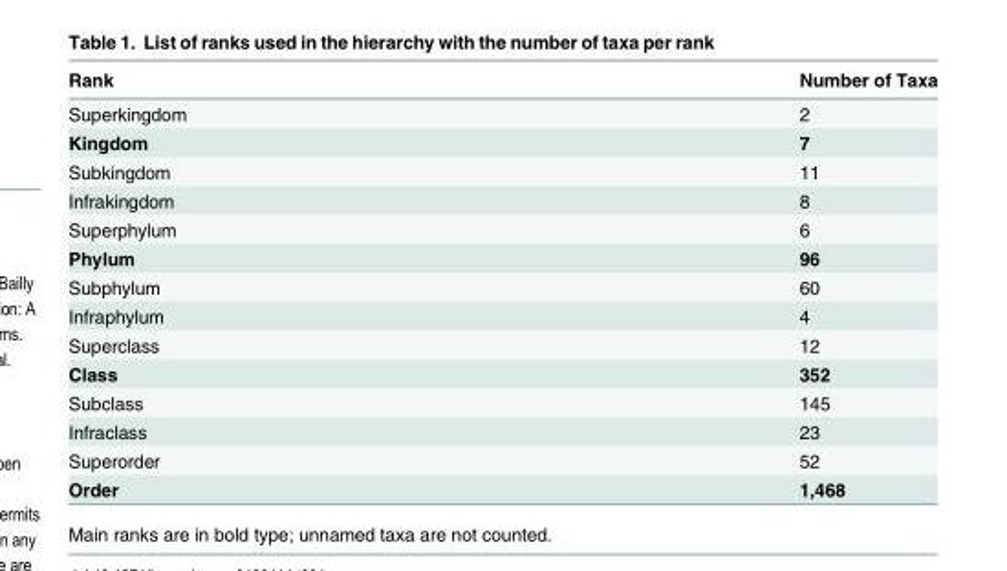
<table><thead><tr><td>Rank</td><td>Number of Taxa</td></tr></thead><tbody><tr><td>Superkingdom</td><td>2</td></tr><tr><td>Kingdom</td><td>7</td></tr><tr><td>Subkingdom</td><td>11</td></tr><tr><td>Infrakingdom</td><td>8</td></tr><tr><td>Superphylum</td><td>6</td></tr><tr><td>Phylum</td><td>96</td></tr><tr><td>Subphylum</td><td>60</td></tr><tr><td>Infraphylum</td><td>4</td></tr><tr><td>Superclass</td><td>12</td></tr><tr><td>Class</td><td>352</td></tr><tr><td>Subclass</td><td>145</td></tr><tr><td>Infraclass</td><td>23</td></tr><tr><td>Superorder</td><td>52</td></tr><tr><td>Order</td><td>1,468</td></tr></tbody></table>